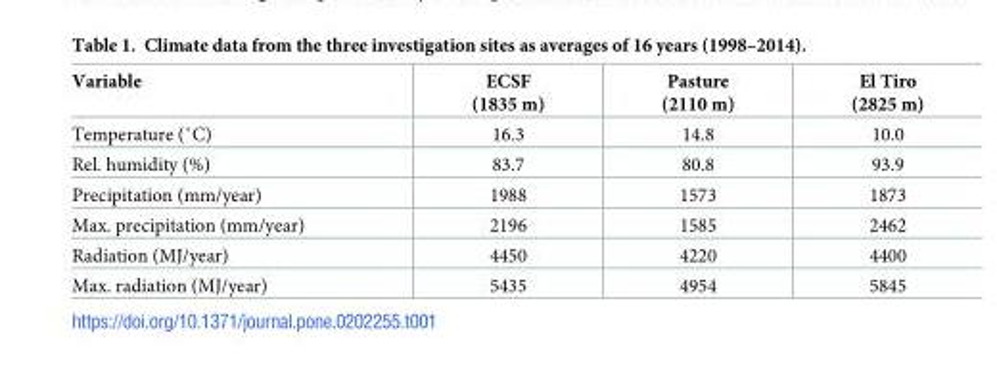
<table><thead><tr><td>Variable</td><td>ECSF (1835 m)</td><td>Pasture (2110 m)</td><td>El Tiro (2825 m)</td></tr></thead><tbody><tr><td>Temperature (˚C)</td><td>16.3</td><td>14.8</td><td>10.0</td></tr><tr><td>Rel. humidity (%)</td><td>83.7</td><td>80.8</td><td>93.9</td></tr><tr><td>Precipitation (mm/year)</td><td>1988</td><td>1573</td><td>1873</td></tr><tr><td>Max. precipitation (mm/year)</td><td>2196</td><td>1585</td><td>2462</td></tr><tr><td>Radiation (MJ/year)</td><td>4450</td><td>4220</td><td>4400</td></tr><tr><td>Max. radiation (MJ/year)</td><td>5435</td><td>4954</td><td>5845</td></tr></tbody></table>